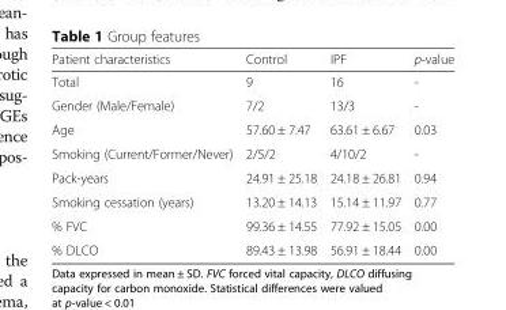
<table><thead><tr><td>Patient characteristics</td><td>Control</td><td>IPF</td><td>p-value</td></tr></thead><tbody><tr><td>Total</td><td>9</td><td>16</td><td>-</td></tr><tr><td>Gender (Male/Female)</td><td>7/2</td><td>13/3</td><td>-</td></tr><tr><td>Age</td><td>57.60 ± 7.47</td><td>63.61 ± 6.67</td><td>0.03</td></tr><tr><td>Smoking (Current/Former/Never)</td><td>2/5/2</td><td>4/10/2</td><td>-</td></tr><tr><td>Pack-years</td><td>24.91 ± 25.18</td><td>24.18 ± 26.81</td><td>0.94</td></tr><tr><td>Smoking cessation (years)</td><td>13.20 ± 14.13</td><td>15.14 ± 11.97</td><td>0.77</td></tr><tr><td>% FVC</td><td>99.36 ± 14.55</td><td>77.92 ± 15.05</td><td>0.00</td></tr><tr><td>% DLCO</td><td>89.43 ± 13.98</td><td>56.91 ± 18.44</td><td>0.00</td></tr></tbody></table>